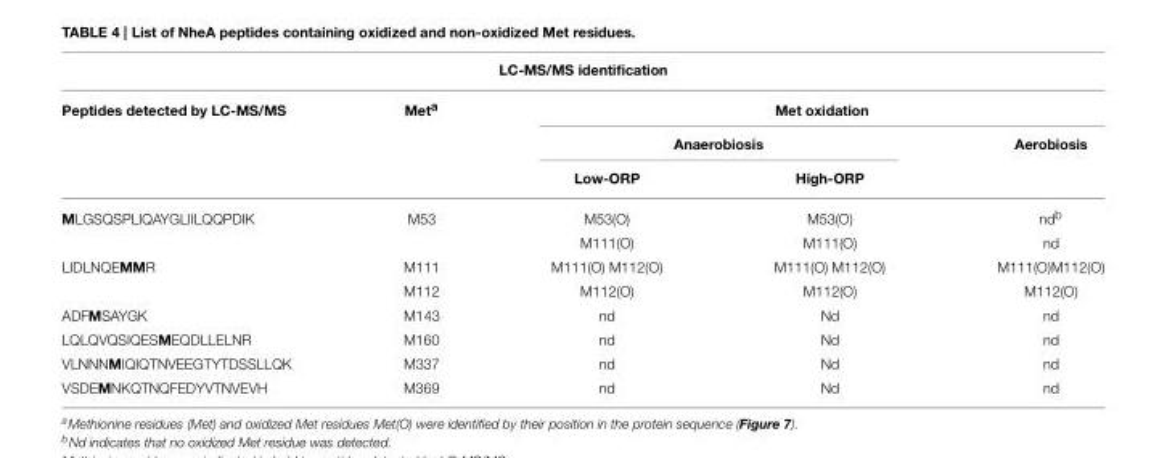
<table><thead><tr><td colspan="5">LC-MS/MS identification</td></tr><tr><td rowspan="3">Peptides detected by LC-MS/MS</td><td rowspan="3">Met<sup>a</sup></td><td colspan="3">Met oxidation</td></tr><tr><td colspan="2">Anaerobiosis</td><td rowspan="2">Aerobiosis</td></tr><tr><td>Low-ORP</td><td>High-ORP</td></tr></thead><tbody><tr><td rowspan="2">MLGSQSPLIQAYGLIILQQPDIK</td><td>M53</td><td>M53(O)</td><td>M53(O)</td><td>nd<sup>b</sup></td></tr><tr><td></td><td>M111(O)</td><td>M111(O)</td><td>nd</td></tr><tr><td rowspan="2">LIDLNQEMMR</td><td>M111</td><td>M111(O) M112(O)</td><td>M111(O) M112(O)</td><td>M111(O)M112(O)</td></tr><tr><td>M112</td><td>M112(O)</td><td>M112(O)</td><td>M112(O)</td></tr><tr><td>ADFMSAYGK</td><td>M143</td><td>nd</td><td>Nd</td><td>nd</td></tr><tr><td>LQLQVQSIQESMEQDLLELNR</td><td>M160</td><td>nd</td><td>Nd</td><td>nd</td></tr><tr><td>VLNNNMIQIQTNVEEGTYTDSSLLQK</td><td>M337</td><td>nd</td><td>Nd</td><td>nd</td></tr><tr><td>VSDEMNKQTNQFEDYVTNVEVH</td><td>M369</td><td>nd</td><td>Nd</td><td>nd</td></tr></tbody></table>